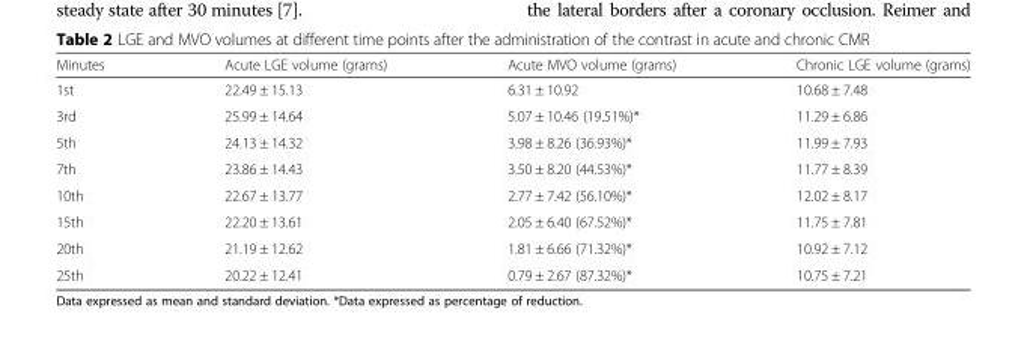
<table><thead><tr><td>Minutes</td><td>Acute LGE volume (grams)</td><td>Acute MVO volume (grams)</td><td>Chronic LGE volume (grams)</td></tr></thead><tbody><tr><td>1st</td><td>22.49 ± 15.13</td><td>6.31 ± 10.92</td><td>10.68 ± 7.48</td></tr><tr><td>3rd</td><td>25.99 ± 14.64</td><td>5.07 ± 10.46 (19.51%)*</td><td>11.29 ± 6.86</td></tr><tr><td>5th</td><td>24.13 ± 14.32</td><td>3.98 ± 8.26 (36.93%)*</td><td>11.99 ± 7.93</td></tr><tr><td>7th</td><td>23.86 ± 14.43</td><td>3.50 ± 8.20 (44.53%)*</td><td>11.77 ± 8.39</td></tr><tr><td>10th</td><td>22.67 ± 13.77</td><td>2.77 ± 7.42 (56.10%)*</td><td>12.02 ± 8.17</td></tr><tr><td>15th</td><td>22.20 ± 13.61</td><td>2.05 ± 6.40 (67.52%)*</td><td>11.75 ± 7.81</td></tr><tr><td>20th</td><td>21.19 ± 12.62</td><td>1.81 ± 6.66 (71.32%)*</td><td>10.92 ± 7.12</td></tr><tr><td>25th</td><td>20.22 ± 12.41</td><td>0.79 ± 2.67 (87.32%)*</td><td>10.75 ± 7.21</td></tr></tbody></table>